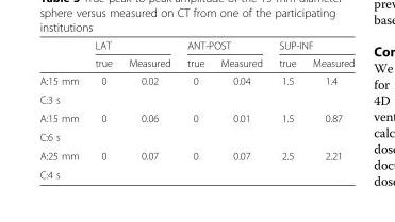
<table><thead><tr><td rowspan="2"></td><td colspan="2">LAT</td><td colspan="2">ANT-POST</td><td colspan="2">SUP-INF</td></tr><tr><td>true</td><td>Measured</td><td>true</td><td>Measured</td><td>true</td><td>Measured</td></tr></thead><tbody><tr><td>A:15 mm</td><td rowspan="2">0</td><td rowspan="2">0.02</td><td rowspan="2">0</td><td rowspan="2">0.04</td><td rowspan="2">1.5</td><td rowspan="2">1.4</td></tr><tr><td>C:3 s</td></tr><tr><td>A:15 mm</td><td rowspan="2">0</td><td rowspan="2">0.06</td><td rowspan="2">0</td><td rowspan="2">0.01</td><td rowspan="2">1.5</td><td rowspan="2">0.87</td></tr><tr><td>C:6 s</td></tr><tr><td>A:25 mm</td><td rowspan="2">0</td><td rowspan="2">0.07</td><td rowspan="2">0</td><td rowspan="2">0.07</td><td rowspan="2">2.5</td><td rowspan="2">2.21</td></tr><tr><td>C:4 s</td></tr></tbody></table>